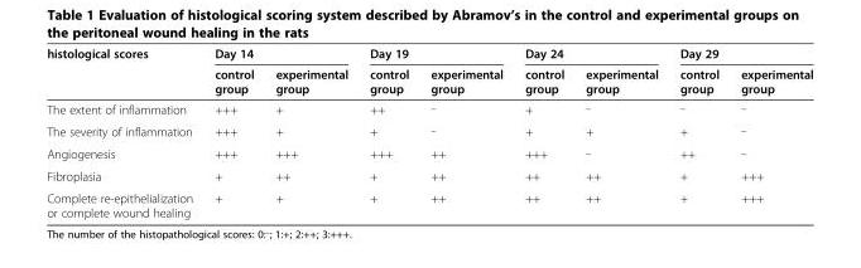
<table><thead><tr><td rowspan="2">histological scores</td><td colspan="2">Day 14</td><td colspan="2">Day 19</td><td colspan="2">Day 24</td><td colspan="2">Day 29</td></tr><tr><td>control group</td><td>experimental group</td><td>control group</td><td>experimental group</td><td>control group</td><td>experimental group</td><td>control group</td><td>experimental group</td></tr></thead><tbody><tr><td>The extent of inflammation</td><td>+++</td><td>+</td><td>++</td><td>_</td><td>+</td><td>_</td><td>_</td><td>_</td></tr><tr><td>The severity of inflammation</td><td>+++</td><td>+</td><td>+</td><td>_</td><td>+</td><td>+</td><td>+</td><td>_</td></tr><tr><td>Angiogenesis</td><td>+++</td><td>+++</td><td>+++</td><td>++</td><td>+++</td><td>_</td><td>++</td><td>_</td></tr><tr><td>Fibroplasia</td><td>+</td><td>++</td><td>+</td><td>++</td><td>++</td><td>++</td><td>+</td><td>+++</td></tr><tr><td>Complete re-epithelialization or complete wound healing</td><td>+</td><td>+</td><td>+</td><td>++</td><td>++</td><td>++</td><td>+</td><td>+++</td></tr></tbody></table>